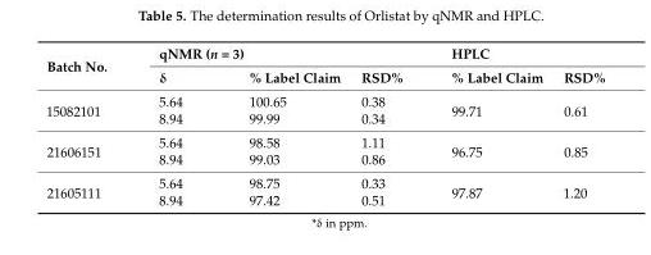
<table><thead><tr><td rowspan="2">Batch No.</td><td colspan="3">qNMR (n = 3)</td><td colspan="2">HPLC</td></tr><tr><td>δ</td><td>% Label Claim</td><td>RSD%</td><td>% Label Claim</td><td>RSD%</td></tr></thead><tbody><tr><td rowspan="2">15082101</td><td>5.64</td><td>100.65</td><td>0.38</td><td rowspan="2">99.71</td><td rowspan="2">0.61</td></tr><tr><td>8.94</td><td>99.99</td><td>0.34</td></tr><tr><td rowspan="2">21606151</td><td>5.64</td><td>98.58</td><td>1.11</td><td rowspan="2">96.75</td><td rowspan="2">0.85</td></tr><tr><td>8.94</td><td>99.03</td><td>0.86</td></tr><tr><td rowspan="2">21605111</td><td>5.64</td><td>98.75</td><td>0.33</td><td rowspan="2">97.87</td><td rowspan="2">1.20</td></tr><tr><td>8.94</td><td>97.42</td><td>0.51</td></tr></tbody></table>